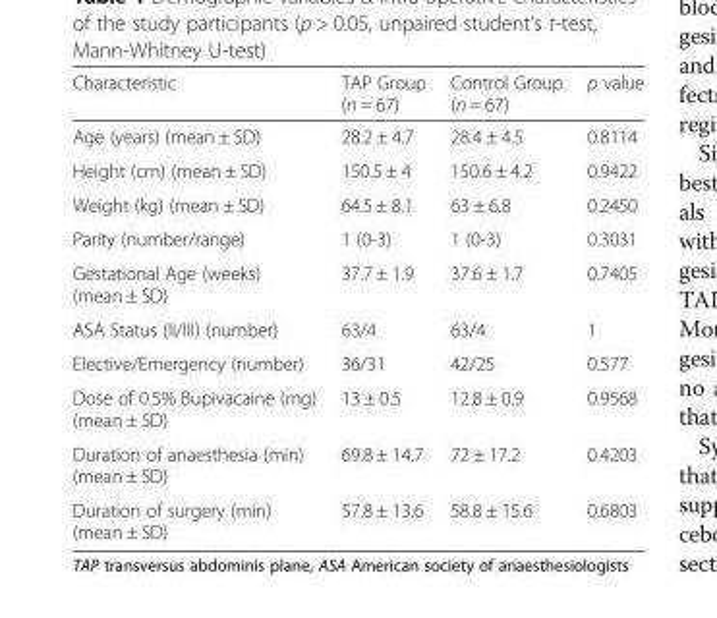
<table><thead><tr><td>Characteristic</td><td>TAP Group (n = 67)</td><td>Control Group (n = 67)</td><td>p value</td></tr></thead><tbody><tr><td>Age (years) (mean ± SD)</td><td>28.2 ± 4.7</td><td>28.4 ± 4.5</td><td>0.8114</td></tr><tr><td>Height (cm) (mean ± SD)</td><td>150.5 ± 4</td><td>150.6 ± 4.2</td><td>0.9422</td></tr><tr><td>Weight (kg) (mean ± SD)</td><td>64.5 ± 8.1</td><td>63 ± 6.8</td><td>0.2450</td></tr><tr><td>Parity (number/range)</td><td>1 (0-3)</td><td>1 (0-3)</td><td>0.3031</td></tr><tr><td>Gestational Age (weeks) (mean ± SD)</td><td>37.7 ± 1.9</td><td>37.6 ± 1.7</td><td>0.7405</td></tr><tr><td>ASA Status (II/III) (number)</td><td>63/4</td><td>63/4</td><td>1</td></tr><tr><td>Elective/Emergency (number)</td><td>36/31</td><td>42/25</td><td>0.577</td></tr><tr><td>Dose of 0.5% Bupivacaine (mg) (mean ± SD)</td><td>13 ± 0.5</td><td>12.8 ± 0.9</td><td>0.9568</td></tr><tr><td>Duration of anaesthesia (min) (mean ± SD)</td><td>69.8 ± 14.7</td><td>72 ± 17.2</td><td>0.4203</td></tr><tr><td>Duration of surgery (min) (mean ± SD)</td><td>57.8 ± 13.6</td><td>58.8 ± 15.6</td><td>0.6803</td></tr></tbody></table>